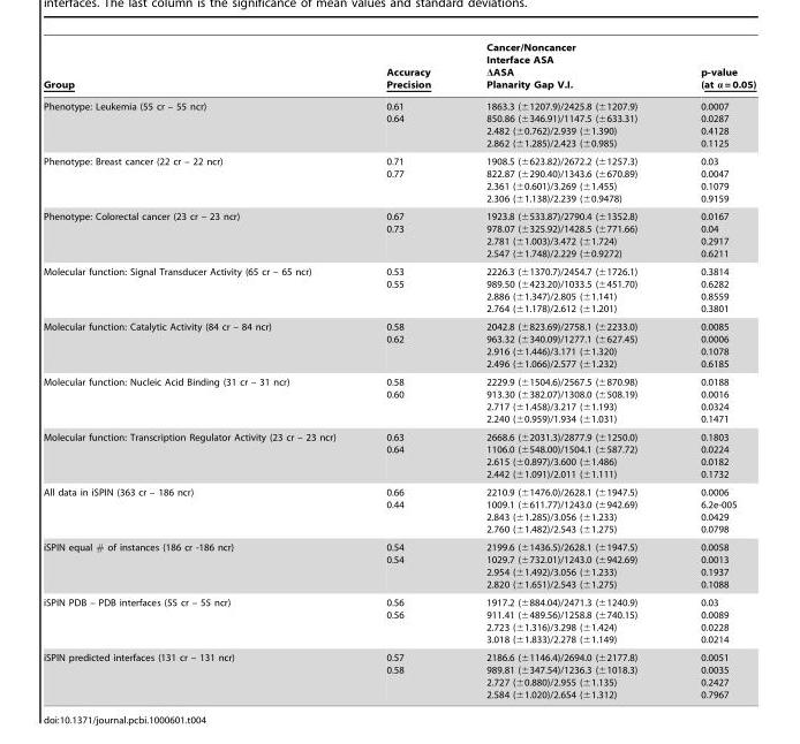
<table><thead><tr><td>Group</td><td>Accuracy Precision</td><td>Cancer/Noncancer Interface ASA ΔASA Planarity Gap V.I.</td><td>p-value (at α = 0.05)</td></tr></thead><tbody><tr><td>Phenotype: Leukemia (55 cr – 55 ncr)</td><td>0.61 0.64</td><td>1863.3 (±1207.9)/2425.8 (±1207.9) 850.86 (±346.91)/1147.5 (±633.31) 2.482 (±0.762)/2.939 (±1.390) 2.862 (±1.285)/2.423 (±0.985)</td><td>0.0007 0.0287 0.4128 0.1125</td></tr><tr><td>Phenotype: Breast cancer (22 cr – 22 ncr)</td><td>0.71 0.77</td><td>1908.5 (±623.82)/2672.2 (±1257.3) 822.87 (±290.40)/1343.6 (±670.89) 2.361 (±0.601)/3.269 (±1.455) 2.306 (±1.138)/2.239 (±0.9478)</td><td>0.03 0.0047 0.1079 0.9159</td></tr><tr><td>Phenotype: Colorectal cancer (23 cr – 23 ncr)</td><td>0.67 0.73</td><td>1923.8 (±533.87)/2790.4 (±1352.8) 978.07 (±325.92)/1428.5 (±771.66) 2.781 (±1.003)/3.472 (±1.724) 2.547 (±1.748)/2.229 (±0.9272)</td><td>0.0167 0.04 0.2917 0.6211</td></tr><tr><td>Molecular function: Signal Transducer Activity (65 cr – 65 ncr)</td><td>0.53 0.55</td><td>2226.3 (±1370.7)/2454.7 (±1726.1) 989.50 (±423.20)/1033.5 (±451.70) 2.886 (±1.347)/2.805 (±1.141) 2.764 (±1.178)/2.612 (±1.201)</td><td>0.3814 0.6282 0.8559 0.3801</td></tr><tr><td>Molecular function: Catalytic Activity (84 cr – 84 ncr)</td><td>0.58 0.62</td><td>2042.8 (±823.69)/2758.1 (±2233.0) 963.32 (±340.09)/1277.1 (±627.45) 2.916 (±1.446)/3.171 (±1.320) 2.496 (±1.066)/2.577 (±1.232)</td><td>0.0085 0.0006 0.1078 0.6185</td></tr><tr><td>Molecular function: Nucleic Acid Binding (31 cr – 31 ncr)</td><td>0.58 0.60</td><td>2229.9 (±1504.6)/2567.5 (±870.98) 913.30 (±382.07)/1308.0 (±508.19) 2.717 (±1.458)/3.217 (±1.193) 2.240 (±0.959)/1.934 (±1.031)</td><td>0.0188 0.0016 0.0324 0.1471</td></tr><tr><td>Molecular function: Transcription Regulator Activity (23 cr – 23 ncr)</td><td>0.63 0.64</td><td>2668.6 (±2031.3)/2877.9 (±1250.0) 1106.0 (±548.00)/1504.1 (±587.72) 2.615 (±0.897)/3.600 (±1.486) 2.442 (±1.091)/2.011 (±1.111)</td><td>0.1803 0.0224 0.0182 0.1732</td></tr><tr><td>All data in iSPIN (363 cr – 186 ncr)</td><td>0.66 0.44</td><td>2210.9 (±1476.0)/2628.1 (±1947.5) 1009.1 (±611.77)/1243.0 (±942.69) 2.843 (±1.285)/3.056 (±1.233) 2.760 (±1.482)/2.543 (±1.275)</td><td>0.0006 6.2e-005 0.0429 0.0798</td></tr><tr><td>iSPIN equal # of instances (186 cr -186 ncr)</td><td>0.54 0.54</td><td>2199.6 (±1436.5)/2628.1 (±1947.5) 1029.7 (±732.01)/1243.0 (±942.69) 2.954 (±1.492)/3.056 (±1.233) 2.820 (±1.651)/2.543 (±1.275)</td><td>0.0058 0.0013 0.1937 0.1088</td></tr><tr><td>iSPIN PDB – PDB interfaces (55 cr – 55 ncr)</td><td>0.56 0.56</td><td>1917.2 (±884.04)/2471.3 (±1240.9) 911.41 (±489.56)/1258.8 (±740.15) 2.723 (±1.316)/3.298 (±1.424) 3.018 (±1.833)/2.278 (±1.149)</td><td>0.03 0.0089 0.0228 0.0214</td></tr><tr><td>iSPIN predicted interfaces (131 cr – 131 ncr)</td><td>0.57 0.58</td><td>2186.6 (±1146.4)/2694.0 (±2177.8) 989.81 (±347.54)/1236.3 (±1018.3) 2.727 (±0.880)/2.955 (±1.135) 2.584 (±1.020)/2.654 (±1.312)</td><td>0.0051 0.0035 0.2427 0.7967</td></tr></tbody></table>